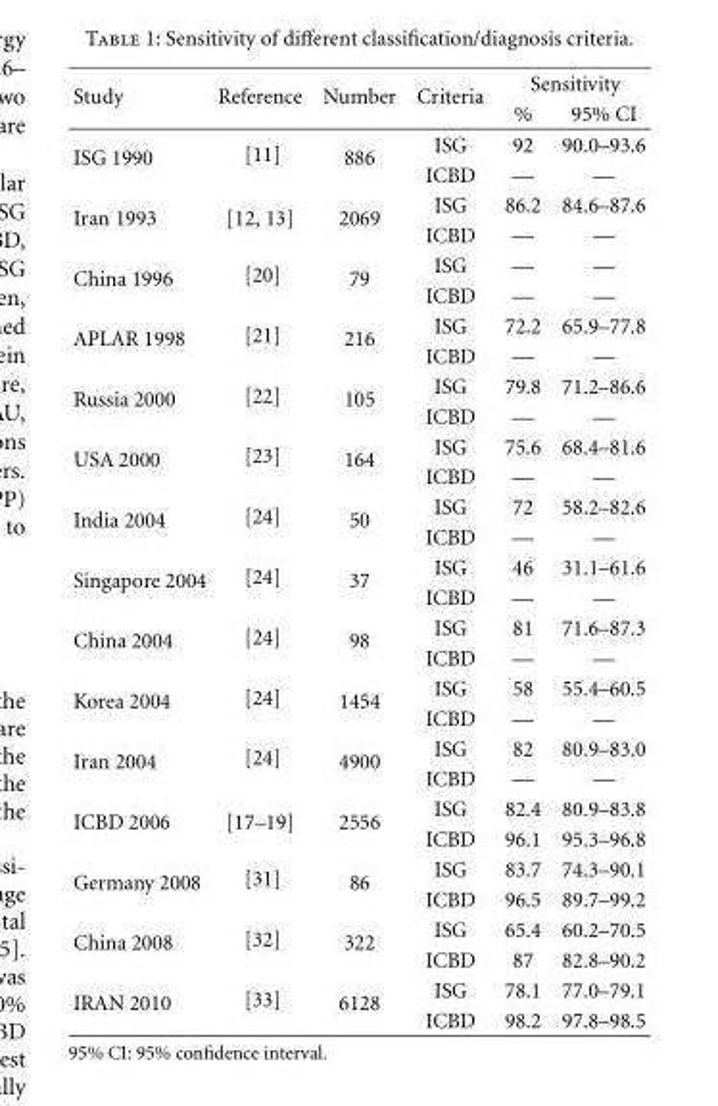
<table><thead><tr><td rowspan="2">Study</td><td rowspan="2">Reference</td><td rowspan="2">Number</td><td rowspan="2">Criteria</td><td colspan="2">Sensitivity</td></tr><tr><td>%</td><td>95% CI</td></tr></thead><tbody><tr><td rowspan="2">ISG 1990</td><td rowspan="2">[11]</td><td rowspan="2">886</td><td>ISG</td><td>92</td><td>90.0–93.6</td></tr><tr><td>ICBD</td><td>—</td><td>—</td></tr><tr><td rowspan="2">Iran 1993</td><td rowspan="2">[12, 13]</td><td rowspan="2">2069</td><td>ISG</td><td>86.2</td><td>84.6–87.6</td></tr><tr><td>ICBD</td><td>—</td><td>—</td></tr><tr><td rowspan="2">China 1996</td><td rowspan="2">[20]</td><td rowspan="2">79</td><td>ISG</td><td>—</td><td>—</td></tr><tr><td>ICBD</td><td>—</td><td>—</td></tr><tr><td rowspan="2">APLAR 1998</td><td rowspan="2">[21]</td><td rowspan="2">216</td><td>ISG</td><td>72.2</td><td>65.9–77.8</td></tr><tr><td>ICBD</td><td>—</td><td>—</td></tr><tr><td rowspan="2">Russia 2000</td><td rowspan="2">[22]</td><td rowspan="2">105</td><td>ISG</td><td>79.8</td><td>71.2–86.6</td></tr><tr><td>ICBD</td><td>—</td><td>—</td></tr><tr><td rowspan="2">USA 2000</td><td rowspan="2">[23]</td><td rowspan="2">164</td><td>ISG</td><td>75.6</td><td>68.4–81.6</td></tr><tr><td>ICBD</td><td>—</td><td>—</td></tr><tr><td rowspan="2">India 2004</td><td rowspan="2">[24]</td><td rowspan="2">50</td><td>ISG</td><td>72</td><td>58.2–82.6</td></tr><tr><td>ICBD</td><td>—</td><td>—</td></tr><tr><td rowspan="2">Singapore 2004</td><td rowspan="2">[24]</td><td rowspan="2">37</td><td>ISG</td><td>46</td><td>31.1–61.6</td></tr><tr><td>ICBD</td><td>—</td><td>—</td></tr><tr><td rowspan="2">China 2004</td><td rowspan="2">[24]</td><td rowspan="2">98</td><td>ISG</td><td>81</td><td>71.6–87.3</td></tr><tr><td>ICBD</td><td>—</td><td>—</td></tr><tr><td rowspan="2">Korea 2004</td><td rowspan="2">[24]</td><td rowspan="2">1454</td><td>ISG</td><td>58</td><td>55.4–60.5</td></tr><tr><td>ICBD</td><td>—</td><td>—</td></tr><tr><td rowspan="2">Iran 2004</td><td rowspan="2">[24]</td><td rowspan="2">4900</td><td>ISG</td><td>82</td><td>80.9–83.0</td></tr><tr><td>ICBD</td><td>—</td><td>—</td></tr><tr><td rowspan="2">ICBD 2006</td><td rowspan="2">[17–19]</td><td rowspan="2">2556</td><td>ISG</td><td>82.4</td><td>80.9–83.8</td></tr><tr><td>ICBD</td><td>96.1</td><td>95.3–96.8</td></tr><tr><td rowspan="2">Germany 2008</td><td rowspan="2">[31]</td><td rowspan="2">86</td><td>ISG</td><td>83.7</td><td>74.3–90.1</td></tr><tr><td>ICBD</td><td>96.5</td><td>89.7–99.2</td></tr><tr><td rowspan="2">China 2008</td><td rowspan="2">[32]</td><td rowspan="2">322</td><td>ISG</td><td>65.4</td><td>60.2–70.5</td></tr><tr><td>ICBD</td><td>87</td><td>82.8–90.2</td></tr><tr><td rowspan="2">IRAN 2010</td><td rowspan="2">[33]</td><td rowspan="2">6128</td><td>ISG</td><td>78.1</td><td>77.0–79.1</td></tr><tr><td>ICBD</td><td>98.2</td><td>97.8–98.5</td></tr></tbody></table>